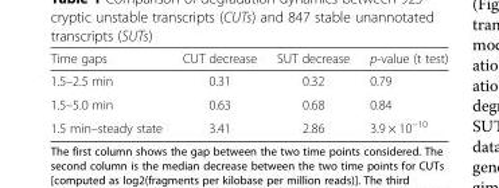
<table><thead><tr><td>Time gaps</td><td>CUT decrease</td><td>SUT decrease</td><td>p-value (t test)</td></tr></thead><tbody><tr><td>1.5–2.5 min</td><td>0.31</td><td>0.32</td><td>0.79</td></tr><tr><td>1.5–5.0 min</td><td>0.63</td><td>0.68</td><td>0.84</td></tr><tr><td>1.5 min–steady state</td><td>3.41</td><td>2.86</td><td>3.9 × 10<sup>−10</sup></td></tr></tbody></table>